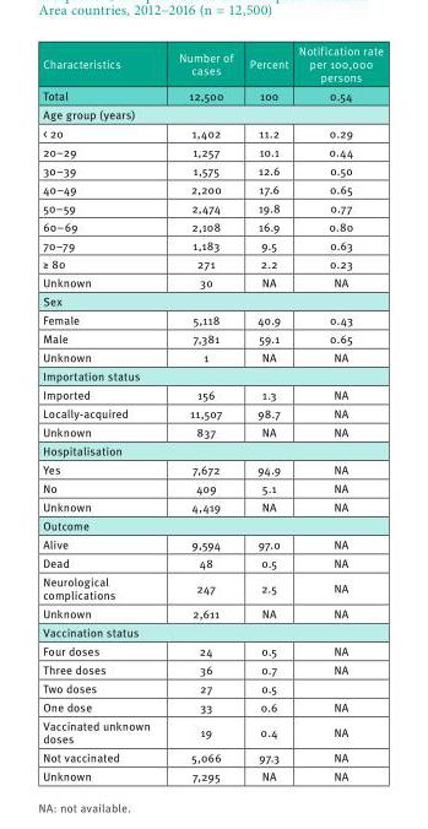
<table><thead><tr><td>Characteristics</td><td>Number of cases</td><td>Percent</td><td>Notification rate per 100,000 persons</td></tr></thead><tbody><tr><td>Total</td><td>12,500</td><td>100</td><td>0.54</td></tr><tr><td colspan="4">Age group (years)</td></tr><tr><td>&lt; 20</td><td>1,402</td><td>11.2</td><td>0.29</td></tr><tr><td>20–29</td><td>1,257</td><td>10.1</td><td>0.44</td></tr><tr><td>30–39</td><td>1,575</td><td>12.6</td><td>0.50</td></tr><tr><td>40–49</td><td>2,200</td><td>17.6</td><td>0.65</td></tr><tr><td>50–59</td><td>2,474</td><td>19.8</td><td>0.77</td></tr><tr><td>60–69</td><td>2,108</td><td>16.9</td><td>0.80</td></tr><tr><td>70–79</td><td>1,183</td><td>9.5</td><td>0.63</td></tr><tr><td>≥ 80</td><td>271</td><td>2.2</td><td>0.23</td></tr><tr><td>Unknown</td><td>30</td><td>NA</td><td>NA</td></tr><tr><td colspan="4">Sex</td></tr><tr><td>Female</td><td>5,118</td><td>40.9</td><td>0.43</td></tr><tr><td>Male</td><td>7,381</td><td>59.1</td><td>0.65</td></tr><tr><td>Unknown</td><td>1</td><td>NA</td><td>NA</td></tr><tr><td colspan="4">Importation status</td></tr><tr><td>Imported</td><td>156</td><td>1.3</td><td>NA</td></tr><tr><td>Locally-acquired</td><td>11,507</td><td>98.7</td><td>NA</td></tr><tr><td>Unknown</td><td>837</td><td>NA</td><td>NA</td></tr><tr><td colspan="4">Hospitalisation</td></tr><tr><td>Yes</td><td>7,672</td><td>94.9</td><td>NA</td></tr><tr><td>No</td><td>409</td><td>5.1</td><td>NA</td></tr><tr><td>Unknown</td><td>4,419</td><td>NA</td><td>NA</td></tr><tr><td colspan="4">Outcome</td></tr><tr><td>Alive</td><td>9,594</td><td>97.0</td><td>NA</td></tr><tr><td>Dead</td><td>48</td><td>0.5</td><td>NA</td></tr><tr><td>Neurological complications</td><td>247</td><td>2.5</td><td>NA</td></tr><tr><td>Unknown</td><td>2,611</td><td>NA</td><td>NA</td></tr><tr><td colspan="4">Vaccination status</td></tr><tr><td>Four doses</td><td>24</td><td>0.5</td><td>NA</td></tr><tr><td>Three doses</td><td>36</td><td>0.7</td><td>NA</td></tr><tr><td>Two doses</td><td>27</td><td>0.5</td><td></td></tr><tr><td>One dose</td><td>33</td><td>0.6</td><td>NA</td></tr><tr><td>Vaccinated unknown doses</td><td>19</td><td>0.4</td><td>NA</td></tr><tr><td>Not vaccinated</td><td>5,066</td><td>97.3</td><td>NA</td></tr><tr><td>Unknown</td><td>7,295</td><td>NA</td><td>NA</td></tr></tbody></table>